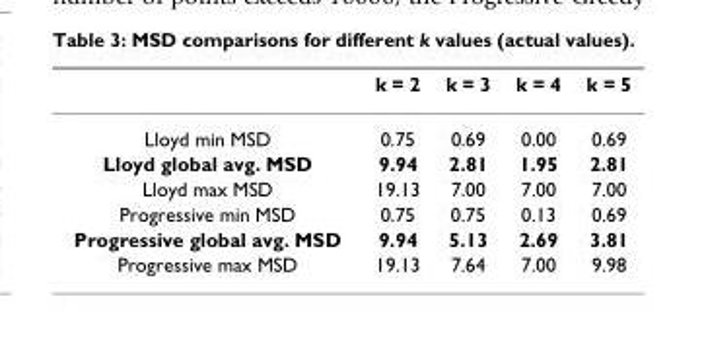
<table><thead><tr><td></td><td>k = 2</td><td>k = 3</td><td>k = 4</td><td>k = 5</td></tr></thead><tbody><tr><td>Lloyd min MSD</td><td>0.75</td><td>0.69</td><td>0.00</td><td>0.69</td></tr><tr><td>Lloyd global avg. MSD</td><td>9.94</td><td>2.81</td><td>1.95</td><td>2.81</td></tr><tr><td>Lloyd max MSD</td><td>19.13</td><td>7.00</td><td>7.00</td><td>7.00</td></tr><tr><td>Progressive min MSD</td><td>0.75</td><td>0.75</td><td>0.13</td><td>0.69</td></tr><tr><td>Progressive global avg. MSD</td><td>9.94</td><td>5.13</td><td>2.69</td><td>3.81</td></tr><tr><td>Progressive max MSD</td><td>19.13</td><td>7.64</td><td>7.00</td><td>9.98</td></tr></tbody></table>